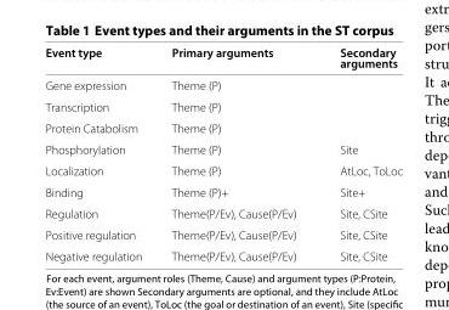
<table><thead><tr><td>Event type</td><td>Primary arguments</td><td>Secondary arguments</td></tr></thead><tbody><tr><td>Gene expression</td><td>Theme (P)</td><td></td></tr><tr><td>Transcription</td><td>Theme (P)</td><td></td></tr><tr><td>Protein Catabolism</td><td>Theme (P)</td><td></td></tr><tr><td>Phosphorylation</td><td>Theme (P)</td><td>Site</td></tr><tr><td>Localization</td><td>Theme (P)</td><td>AtLoc, ToLoc</td></tr><tr><td>Binding</td><td>Theme (P)+</td><td>Site+</td></tr><tr><td>Regulation</td><td>Theme(P/Ev), Cause(P/Ev)</td><td>Site, CSite</td></tr><tr><td>Positive regulation</td><td>Theme(P/Ev), Cause(P/Ev)</td><td>Site, CSite</td></tr><tr><td>Negative regulation</td><td>Theme(P/Ev), Cause(P/Ev)</td><td>Site, CSite</td></tr></tbody></table>